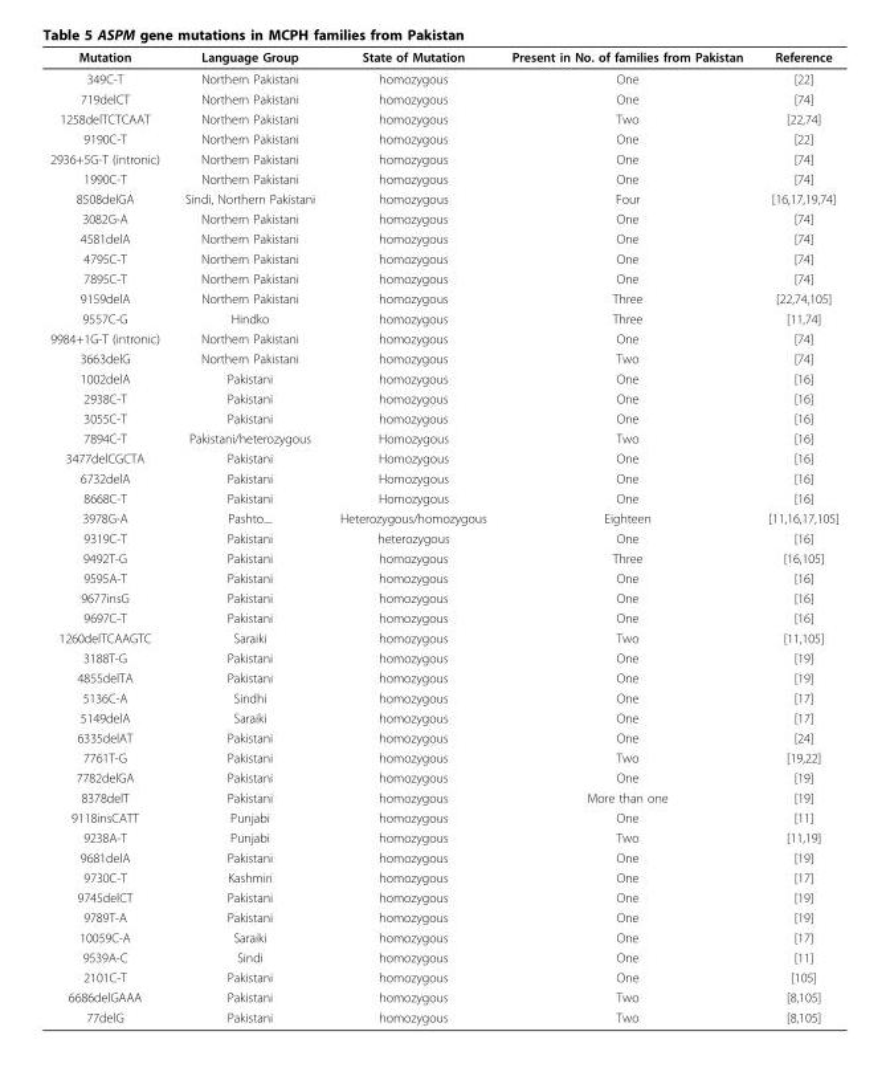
<table><thead><tr><td>Mutation</td><td>Language Group</td><td>State of Mutation</td><td>Present in No. of families from Pakistan</td><td>Reference</td></tr></thead><tbody><tr><td>349C-T</td><td>Northern Pakistani</td><td>homozygous</td><td>One</td><td>[22]</td></tr><tr><td>719delCT</td><td>Northern Pakistani</td><td>homozygous</td><td>One</td><td>[74]</td></tr><tr><td>1258delTCTCAAT</td><td>Northern Pakistani</td><td>homozygous</td><td>Two</td><td>[22,74]</td></tr><tr><td>9190C-T</td><td>Northern Pakistani</td><td>homozygous</td><td>One</td><td>[22]</td></tr><tr><td>2936+5G-T (intronic)</td><td>Northern Pakistani</td><td>homozygous</td><td>One</td><td>[74]</td></tr><tr><td>1990C-T</td><td>Northern Pakistani</td><td>homozygous</td><td>One</td><td>[74]</td></tr><tr><td>8508delGA</td><td>Sindi, Northern Pakistani</td><td>homozygous</td><td>Four</td><td>[16,17,19,74]</td></tr><tr><td>3082G-A</td><td>Northern Pakistani</td><td>homozygous</td><td>One</td><td>[74]</td></tr><tr><td>4581delA</td><td>Northern Pakistani</td><td>homozygous</td><td>One</td><td>[74]</td></tr><tr><td>4795C-T</td><td>Northern Pakistani</td><td>homozygous</td><td>One</td><td>[74]</td></tr><tr><td>7895C-T</td><td>Northern Pakistani</td><td>homozygous</td><td>One</td><td>[74]</td></tr><tr><td>9159delA</td><td>Northern Pakistani</td><td>homozygous</td><td>Three</td><td>[22,74,105]</td></tr><tr><td>9557C-G</td><td>Hindko</td><td>homozygous</td><td>Three</td><td>[11,74]</td></tr><tr><td>9984+1G-T (intronic)</td><td>Northern Pakistani</td><td>homozygous</td><td>One</td><td>[74]</td></tr><tr><td>3663delG</td><td>Northern Pakistani</td><td>homozygous</td><td>Two</td><td>[74]</td></tr><tr><td>1002delA</td><td>Pakistani</td><td>homozygous</td><td>One</td><td>[16]</td></tr><tr><td>2938C-T</td><td>Pakistani</td><td>homozygous</td><td>One</td><td>[16]</td></tr><tr><td>3055C-T</td><td>Pakistani</td><td>homozygous</td><td>One</td><td>[16]</td></tr><tr><td>7894C-T</td><td>Pakistani/heterozygous</td><td>Homozygous</td><td>Two</td><td>[16]</td></tr><tr><td>3477delCGCTA</td><td>Pakistani</td><td>Homozygous</td><td>One</td><td>[16]</td></tr><tr><td>6732delA</td><td>Pakistani</td><td>Homozygous</td><td>One</td><td>[16]</td></tr><tr><td>8668C-T</td><td>Pakistani</td><td>Homozygous</td><td>One</td><td>[16]</td></tr><tr><td>3978G-A</td><td>Pashto....</td><td>Heterozygous/homozygous</td><td>Eighteen</td><td>[11,16,17,105]</td></tr><tr><td>9319C-T</td><td>Pakistani</td><td>heterozygous</td><td>One</td><td>[16]</td></tr><tr><td>9492T-G</td><td>Pakistani</td><td>homozygous</td><td>Three</td><td>[16,105]</td></tr><tr><td>9595A-T</td><td>Pakistani</td><td>homozygous</td><td>One</td><td>[16]</td></tr><tr><td>9677insG</td><td>Pakistani</td><td>homozygous</td><td>One</td><td>[16]</td></tr><tr><td>9697C-T</td><td>Pakistani</td><td>homozygous</td><td>One</td><td>[16]</td></tr><tr><td>1260delTCAAGTC</td><td>Saraiki</td><td>homozygous</td><td>Two</td><td>[11,105]</td></tr><tr><td>3188T-G</td><td>Pakistani</td><td>homozygous</td><td>One</td><td>[19]</td></tr><tr><td>4855delTA</td><td>Pakistani</td><td>homozygous</td><td>One</td><td>[19]</td></tr><tr><td>5136C-A</td><td>Sindhi</td><td>homozygous</td><td>One</td><td>[17]</td></tr><tr><td>5149delA</td><td>Saraiki</td><td>homozygous</td><td>One</td><td>[17]</td></tr><tr><td>6335delAT</td><td>Pakistani</td><td>homozygous</td><td>One</td><td>[24]</td></tr><tr><td>7761T-G</td><td>Pakistani</td><td>homozygous</td><td>Two</td><td>[19,22]</td></tr><tr><td>7782delGA</td><td>Pakistani</td><td>homozygous</td><td>One</td><td>[19]</td></tr><tr><td>8378delT</td><td>Pakistani</td><td>homozygous</td><td>More than one</td><td>[19]</td></tr><tr><td>9118insCATT</td><td>Punjabi</td><td>homozygous</td><td>One</td><td>[11]</td></tr><tr><td>9238A-T</td><td>Punjabi</td><td>homozygous</td><td>Two</td><td>[11,19]</td></tr><tr><td>9681delA</td><td>Pakistani</td><td>homozygous</td><td>One</td><td>[19]</td></tr><tr><td>9730C-T</td><td>Kashmiri</td><td>homozygous</td><td>One</td><td>[17]</td></tr><tr><td>9745delCT</td><td>Pakistani</td><td>homozygous</td><td>One</td><td>[19]</td></tr><tr><td>9789T-A</td><td>Pakistani</td><td>homozygous</td><td>One</td><td>[19]</td></tr><tr><td>10059C-A</td><td>Saraiki</td><td>homozygous</td><td>One</td><td>[17]</td></tr><tr><td>9539A-C</td><td>Sindi</td><td>homozygous</td><td>One</td><td>[11]</td></tr><tr><td>2101C-T</td><td>Pakistani</td><td>homozygous</td><td>One</td><td>[105]</td></tr><tr><td>6686delGAAA</td><td>Pakistani</td><td>homozygous</td><td>Two</td><td>[8,105]</td></tr><tr><td>77delG</td><td>Pakistani</td><td>homozygous</td><td>Two</td><td>[8,105]</td></tr></tbody></table>